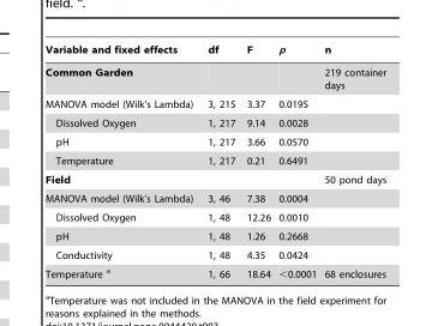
<table><thead><tr><td>Variable and fixed effects</td><td>df</td><td>F</td><td>p</td><td>n</td></tr></thead><tbody><tr><td>Common Garden</td><td></td><td></td><td></td><td>219 container days</td></tr><tr><td>MANOVA model (Wilk’s Lambda)</td><td>3, 215</td><td>3.37</td><td>0.0195</td><td></td></tr><tr><td>Dissolved Oxygen</td><td>1, 217</td><td>9.14</td><td>0.0028</td><td></td></tr><tr><td>pH</td><td>1, 217</td><td>3.66</td><td>0.0570</td><td></td></tr><tr><td>Temperature</td><td>1, 217</td><td>0.21</td><td>0.6491</td><td></td></tr><tr><td>Field</td><td></td><td></td><td></td><td>50 pond days</td></tr><tr><td>MANOVA model (Wilk’s Lambda)</td><td>3, 46</td><td>7.38</td><td>0.0004</td><td></td></tr><tr><td>Dissolved Oxygen</td><td>1, 48</td><td>12.26</td><td>0.0010</td><td></td></tr><tr><td>pH</td><td>1, 48</td><td>1.26</td><td>0.2668</td><td></td></tr><tr><td>Conductivity</td><td>1, 48</td><td>4.35</td><td>0.0424</td><td></td></tr><tr><td>Temperature a</td><td>1, 66</td><td>18.64</td><td>&lt;0.0001</td><td>68 enclosures</td></tr></tbody></table>